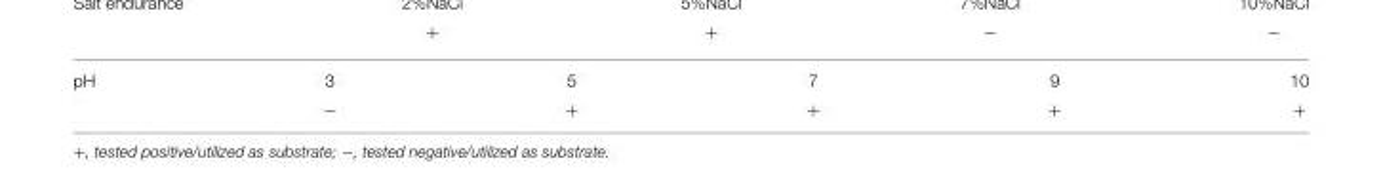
<table><tbody><tr><td rowspan="2">pH</td><td>3</td><td>5</td><td>7</td><td>9</td><td>10</td></tr><tr><td>−</td><td>+</td><td>+</td><td>+</td><td>+</td></tr></tbody></table>